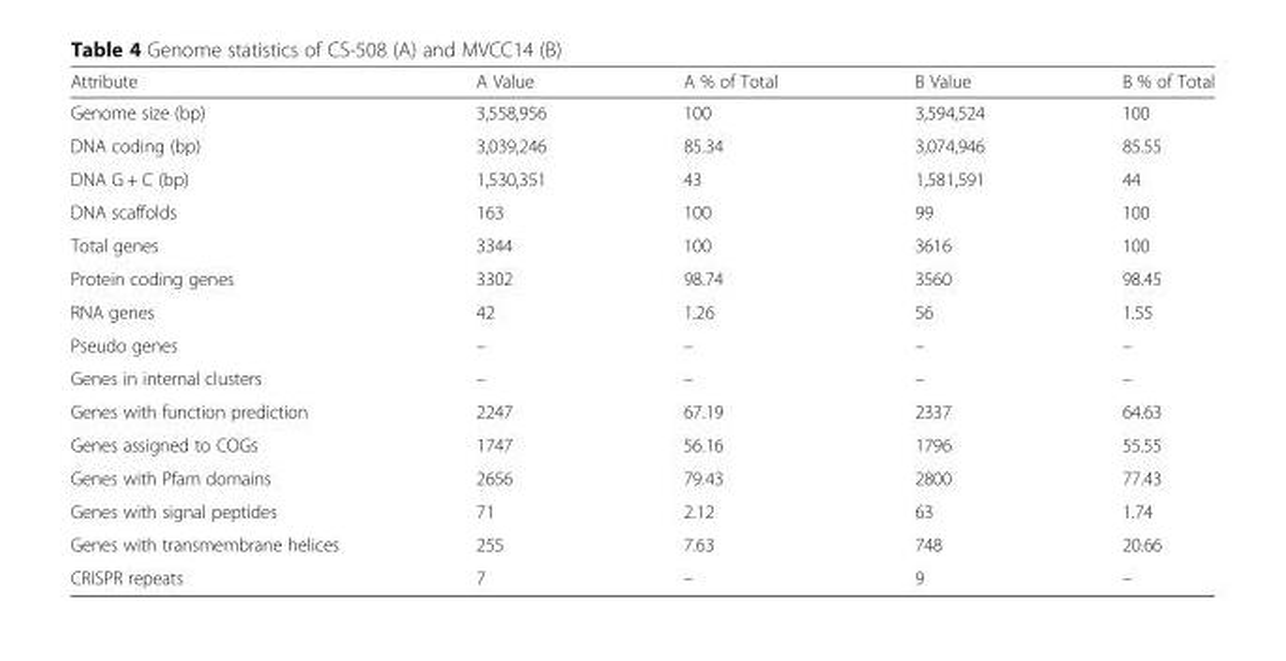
<table><thead><tr><td>Attribute</td><td>A Value</td><td>A % of Total</td><td>B Value</td><td>B % of Total</td></tr></thead><tbody><tr><td>Genome size (bp)</td><td>3,558,956</td><td>100</td><td>3,594,524</td><td>100</td></tr><tr><td>DNA coding (bp)</td><td>3,039,246</td><td>85.34</td><td>3,074,946</td><td>85.55</td></tr><tr><td>DNA G + C (bp)</td><td>1,530,351</td><td>43</td><td>1,581,591</td><td>44</td></tr><tr><td>DNA scaffolds</td><td>163</td><td>100</td><td>99</td><td>100</td></tr><tr><td>Total genes</td><td>3344</td><td>100</td><td>3616</td><td>100</td></tr><tr><td>Protein coding genes</td><td>3302</td><td>98.74</td><td>3560</td><td>98.45</td></tr><tr><td>RNA genes</td><td>42</td><td>1.26</td><td>56</td><td>1.55</td></tr><tr><td>Pseudo genes</td><td>–</td><td>–</td><td>–</td><td>–</td></tr><tr><td>Genes in internal clusters</td><td>–</td><td>–</td><td>–</td><td>–</td></tr><tr><td>Genes with function prediction</td><td>2247</td><td>67.19</td><td>2337</td><td>64.63</td></tr><tr><td>Genes assigned to COGs</td><td>1747</td><td>56.16</td><td>1796</td><td>55.55</td></tr><tr><td>Genes with Pfam domains</td><td>2656</td><td>79.43</td><td>2800</td><td>77.43</td></tr><tr><td>Genes with signal peptides</td><td>71</td><td>2.12</td><td>63</td><td>1.74</td></tr><tr><td>Genes with transmembrane helices</td><td>255</td><td>7.63</td><td>748</td><td>20.66</td></tr><tr><td>CRISPR repeats</td><td>7</td><td>–</td><td>9</td><td>–</td></tr></tbody></table>